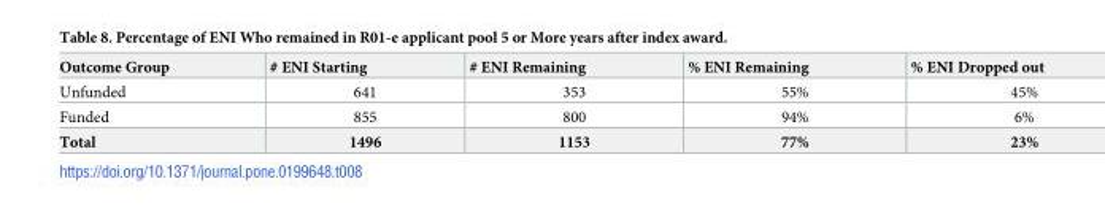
<table><thead><tr><td>Outcome Group</td><td># ENI Starting</td><td># ENI Remaining</td><td>% ENI Remaining</td><td>% ENI Dropped out</td></tr></thead><tbody><tr><td>Unfunded</td><td>641</td><td>353</td><td>55%</td><td>45%</td></tr><tr><td>Funded</td><td>855</td><td>800</td><td>94%</td><td>6%</td></tr><tr><td>Total</td><td>1496</td><td>1153</td><td>77%</td><td>23%</td></tr></tbody></table>